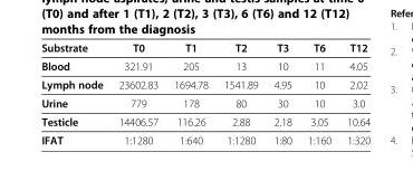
<table><thead><tr><td>Substrate</td><td>T0</td><td>T1</td><td>T2</td><td>T3</td><td>T6</td><td>T12</td></tr></thead><tbody><tr><td>Blood</td><td>321.91</td><td>205</td><td>13</td><td>10</td><td>11</td><td>4.05</td></tr><tr><td>Lymph node</td><td>23602.83</td><td>1694.78</td><td>1541.89</td><td>4.95</td><td>10</td><td>2.02</td></tr><tr><td>Urine</td><td>779</td><td>178</td><td>80</td><td>30</td><td>10</td><td>3.0</td></tr><tr><td>Testicle</td><td>14406.57</td><td>116.26</td><td>2.88</td><td>2.18</td><td>3.05</td><td>10.64</td></tr><tr><td>IFAT</td><td>1:1280</td><td>1:640</td><td>1:1280</td><td>1:80</td><td>1:160</td><td>1:320</td></tr></tbody></table>